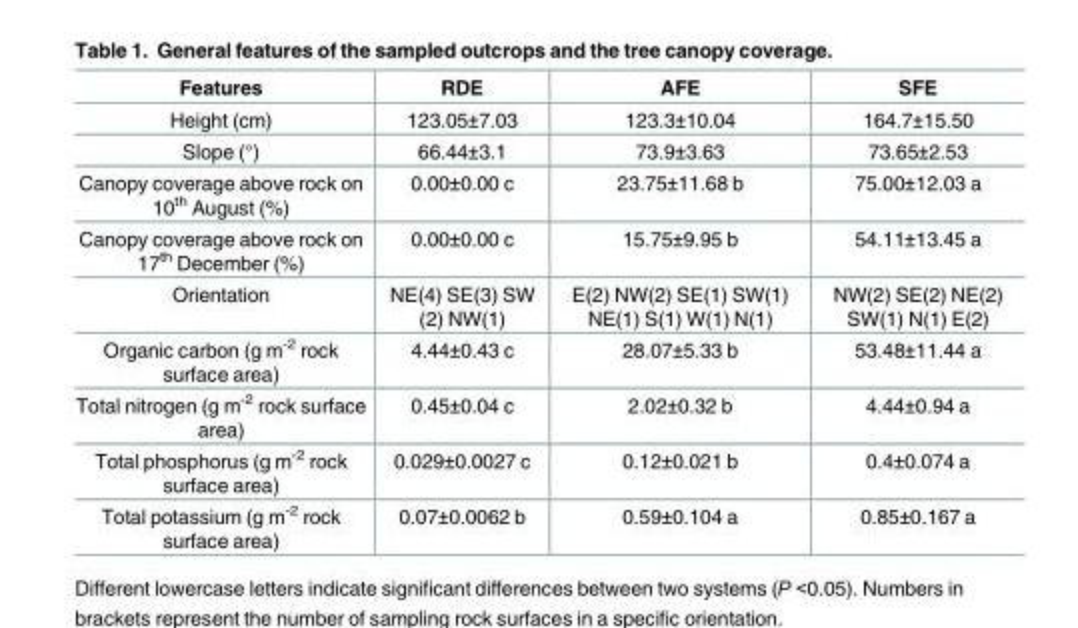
<table><thead><tr><td>Features</td><td>RDE</td><td>AFE</td><td>SFE</td></tr></thead><tbody><tr><td>Height (cm)</td><td>123.05±7.03</td><td>123.3±10.04</td><td>164.7±15.50</td></tr><tr><td>Slope (°)</td><td>66.44±3.1</td><td>73.9±3.63</td><td>73.65±2.53</td></tr><tr><td>Canopy coverage above rock on 10<sup>th</sup> August (%)</td><td>0.00±0.00 c</td><td>23.75±11.68 b</td><td>75.00±12.03 a</td></tr><tr><td>Canopy coverage above rock on 17<sup>th</sup> December (%)</td><td>0.00±0.00 c</td><td>15.75±9.95 b</td><td>54.11±13.45 a</td></tr><tr><td>Orientation</td><td>NE(4) SE(3) SW (2) NW(1)</td><td>E(2) NW(2) SE(1) SW(1) NE(1) S(1) W(1) N(1)</td><td>NW(2) SE(2) NE(2) SW(1) N(1) E(2)</td></tr><tr><td>Organic carbon (g m<sup>-2</sup> rock surface area)</td><td>4.44±0.43 c</td><td>28.07±5.33 b</td><td>53.48±11.44 a</td></tr><tr><td>Total nitrogen (g m<sup>-2</sup> rock surface area)</td><td>0.45±0.04 c</td><td>2.02±0.32 b</td><td>4.44±0.94 a</td></tr><tr><td>Total phosphorus (g m<sup>-2</sup> rock surface area)</td><td>0.029±0.0027 c</td><td>0.12±0.021 b</td><td>0.4±0.074 a</td></tr><tr><td>Total potassium (g m<sup>-2</sup> rock surface area)</td><td>0.07±0.0062 b</td><td>0.59±0.104 a</td><td>0.85±0.167 a</td></tr></tbody></table>